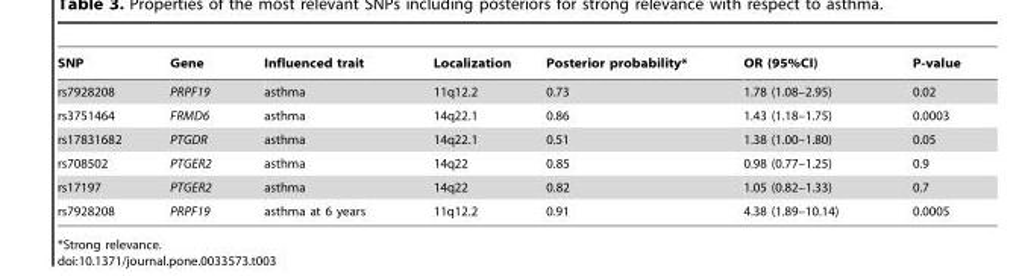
<table><thead><tr><td>SNP</td><td>Gene</td><td>Influenced trait</td><td>Localization</td><td>Posterior probability*</td><td>OR (95%CI)</td><td>P-value</td></tr></thead><tbody><tr><td>rs7928208</td><td>PRPF19</td><td>asthma</td><td>11q12.2</td><td>0.73</td><td>1.78 (1.08–2.95)</td><td>0.02</td></tr><tr><td>rs3751464</td><td>FRMD6</td><td>asthma</td><td>14q22.1</td><td>0.86</td><td>1.43 (1.18–1.75)</td><td>0.0003</td></tr><tr><td>rs17831682</td><td>PTGDR</td><td>asthma</td><td>14q22.1</td><td>0.51</td><td>1.38 (1.00–1.80)</td><td>0.05</td></tr><tr><td>rs708502</td><td>PTGER2</td><td>asthma</td><td>14q22</td><td>0.85</td><td>0.98 (0.77–1.25)</td><td>0.9</td></tr><tr><td>rs17197</td><td>PTGER2</td><td>asthma</td><td>14q22</td><td>0.82</td><td>1.05 (0.82–1.33)</td><td>0.7</td></tr><tr><td>rs7928208</td><td>PRPF19</td><td>asthma at 6 years</td><td>11q12.2</td><td>0.91</td><td>4.38 (1.89–10.14)</td><td>0.0005</td></tr></tbody></table>